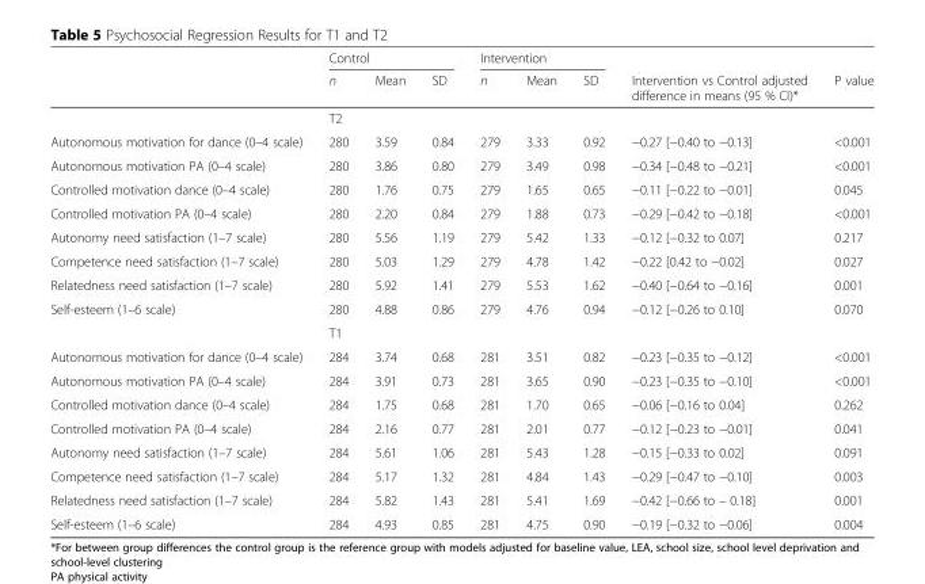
<table><thead><tr><td rowspan="2"></td><td colspan="3">Control</td><td colspan="3">Intervention</td><td rowspan="2">Intervention vs Control adjusted difference in means (95 % CI)*</td><td rowspan="2">P value</td></tr><tr><td>n</td><td>Mean</td><td>SD</td><td>n</td><td>Mean</td><td>SD</td></tr></thead><tbody><tr><td></td><td colspan="7">T2</td><td></td></tr><tr><td>Autonomous motivation for dance (0–4 scale)</td><td>280</td><td>3.59</td><td>0.84</td><td>279</td><td>3.33</td><td>0.92</td><td>−0.27 [−0.40 to −0.13]</td><td>&lt;0.001</td></tr><tr><td>Autonomous motivation PA (0–4 scale)</td><td>280</td><td>3.86</td><td>0.80</td><td>279</td><td>3.49</td><td>0.98</td><td>−0.34 [−0.48 to −0.21]</td><td>&lt;0.001</td></tr><tr><td>Controlled motivation dance (0–4 scale)</td><td>280</td><td>1.76</td><td>0.75</td><td>279</td><td>1.65</td><td>0.65</td><td>−0.11 [−0.22 to −0.01]</td><td>0.045</td></tr><tr><td>Controlled motivation PA (0–4 scale)</td><td>280</td><td>2.20</td><td>0.84</td><td>279</td><td>1.88</td><td>0.73</td><td>−0.29 [−0.42 to −0.18]</td><td>&lt;0.001</td></tr><tr><td>Autonomy need satisfaction (1–7 scale)</td><td>280</td><td>5.56</td><td>1.19</td><td>279</td><td>5.42</td><td>1.33</td><td>−0.12 [−0.32 to 0.07]</td><td>0.217</td></tr><tr><td>Competence need satisfaction (1–7 scale)</td><td>280</td><td>5.03</td><td>1.29</td><td>279</td><td>4.78</td><td>1.42</td><td>−0.22 [0.42 to −0.02]</td><td>0.027</td></tr><tr><td>Relatedness need satisfaction (1–7 scale)</td><td>280</td><td>5.92</td><td>1.41</td><td>279</td><td>5.53</td><td>1.62</td><td>−0.40 [−0.64 to −0.16]</td><td>0.001</td></tr><tr><td rowspan="2">Self-esteem (1–6 scale)</td><td>280</td><td>4.88</td><td>0.86</td><td>279</td><td>4.76</td><td>0.94</td><td>−0.12 [−0.26 to 0.10]</td><td>0.070</td></tr><tr><td colspan="7">T1</td><td></td></tr><tr><td>Autonomous motivation for dance (0–4 scale)</td><td>284</td><td>3.74</td><td>0.68</td><td>281</td><td>3.51</td><td>0.82</td><td>−0.23 [−0.35 to −0.12]</td><td>&lt;0.001</td></tr><tr><td>Autonomous motivation PA (0–4 scale)</td><td>284</td><td>3.91</td><td>0.73</td><td>281</td><td>3.65</td><td>0.90</td><td>−0.23 [−0.35 to −0.10]</td><td>&lt;0.001</td></tr><tr><td>Controlled motivation dance (0–4 scale)</td><td>284</td><td>1.75</td><td>0.68</td><td>281</td><td>1.70</td><td>0.65</td><td>−0.06 [−0.16 to 0.04]</td><td>0.262</td></tr><tr><td>Controlled motivation PA (0–4 scale)</td><td>284</td><td>2.16</td><td>0.77</td><td>281</td><td>2.01</td><td>0.77</td><td>−0.12 [−0.23 to −0.01]</td><td>0.041</td></tr><tr><td>Autonomy need satisfaction (1–7 scale)</td><td>284</td><td>5.61</td><td>1.06</td><td>281</td><td>5.43</td><td>1.28</td><td>−0.15 [−0.33 to 0.02]</td><td>0.091</td></tr><tr><td>Competence need satisfaction (1–7 scale)</td><td>284</td><td>5.17</td><td>1.32</td><td>281</td><td>4.84</td><td>1.43</td><td>−0.29 [−0.47 to −0.10]</td><td>0.003</td></tr><tr><td>Relatedness need satisfaction (1–7 scale)</td><td>284</td><td>5.82</td><td>1.43</td><td>281</td><td>5.41</td><td>1.69</td><td>−0.42 [−0.66 to – 0.18]</td><td>0.001</td></tr><tr><td>Self-esteem (1–6 scale)</td><td>284</td><td>4.93</td><td>0.85</td><td>281</td><td>4.75</td><td>0.90</td><td>−0.19 [−0.32 to −0.06]</td><td>0.004</td></tr></tbody></table>